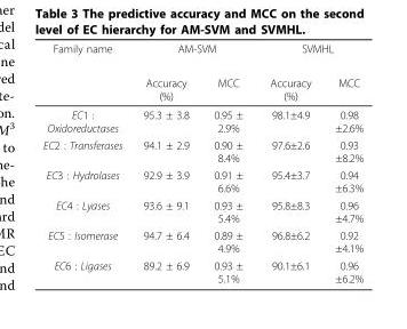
<table><thead><tr><td rowspan="2">Family name</td><td colspan="2">AM-SVM</td><td colspan="2">SVMHL</td></tr><tr><td>Accuracy (%)</td><td>MCC</td><td>Accuracy (%)</td><td>MCC</td></tr></thead><tbody><tr><td>EC1 : Oxidoreductases</td><td>95.3 ± 3.8</td><td>0.95 ± 2.9%</td><td>98.1±4.9</td><td>0.98 ±2.6%</td></tr><tr><td>EC2 : Transferases</td><td>94.1 ± 2.9</td><td>0.90 ± 8.4%</td><td>97.6±2.6</td><td>0.93 ±8.2%</td></tr><tr><td>EC3 : Hydrolases</td><td>92.9 ± 3.9</td><td>0.91 ± 6.6%</td><td>95.4±3.7</td><td>0.94 ±6.3%</td></tr><tr><td>EC4 : Lyases</td><td>93.6 ± 9.1</td><td>0.93 ± 5.4%</td><td>95.8±8.3</td><td>0.96 ±4.7%</td></tr><tr><td>EC5 : Isomerase</td><td>94.7 ± 6.4</td><td>0.89 ± 4.9%</td><td>96.8±6.2</td><td>0.92 ±4.1%</td></tr><tr><td>EC6 : Ligases</td><td>89.2 ± 6.9</td><td>0.93 ± 5.1%</td><td>90.1±6.1</td><td>0.96 ±6.2%</td></tr></tbody></table>